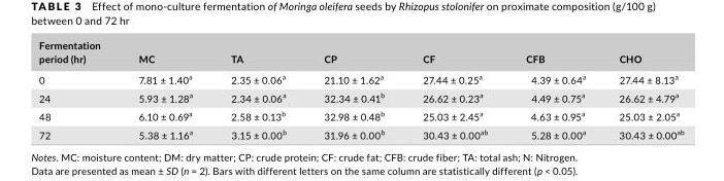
<table><thead><tr><td>Fermentation period (hr)</td><td>MC</td><td>TA</td><td>CP</td><td>CF</td><td>CFB</td><td>CHO</td></tr></thead><tbody><tr><td>0</td><td>7.81 ± 1.40<sup>a</sup></td><td>2.35 ± 0.06<sup>a</sup></td><td>21.10 ± 1.62<sup>a</sup></td><td>27.44 ± 0.25<sup>a</sup></td><td>4.39 ± 0.64<sup>a</sup></td><td>27.44 ± 8.13<sup>a</sup></td></tr><tr><td>24</td><td>5.93 ± 1.28<sup>a</sup></td><td>2.34 ± 0.06<sup>a</sup></td><td>32.34 ± 0.41<sup>b</sup></td><td>26.62 ± 0.23<sup>a</sup></td><td>4.49 ± 0.75<sup>a</sup></td><td>26.62 ± 4.79<sup>a</sup></td></tr><tr><td>48</td><td>6.10 ± 0.69<sup>a</sup></td><td>2.58 ± 0.13<sup>b</sup></td><td>32.98 ± 0.48<sup>b</sup></td><td>25.03 ± 2.45<sup>a</sup></td><td>4.63 ± 0.95<sup>a</sup></td><td>25.03 ± 2.05<sup>a</sup></td></tr><tr><td>72</td><td>5.38 ± 1.16<sup>a</sup></td><td>3.15 ± 0.00<sup>b</sup></td><td>31.96 ± 0.00<sup>b</sup></td><td>30.43 ± 0.00<sup>ab</sup></td><td>5.28 ± 0.00<sup>a</sup></td><td>30.43 ± 0.00<sup>ab</sup></td></tr></tbody></table>